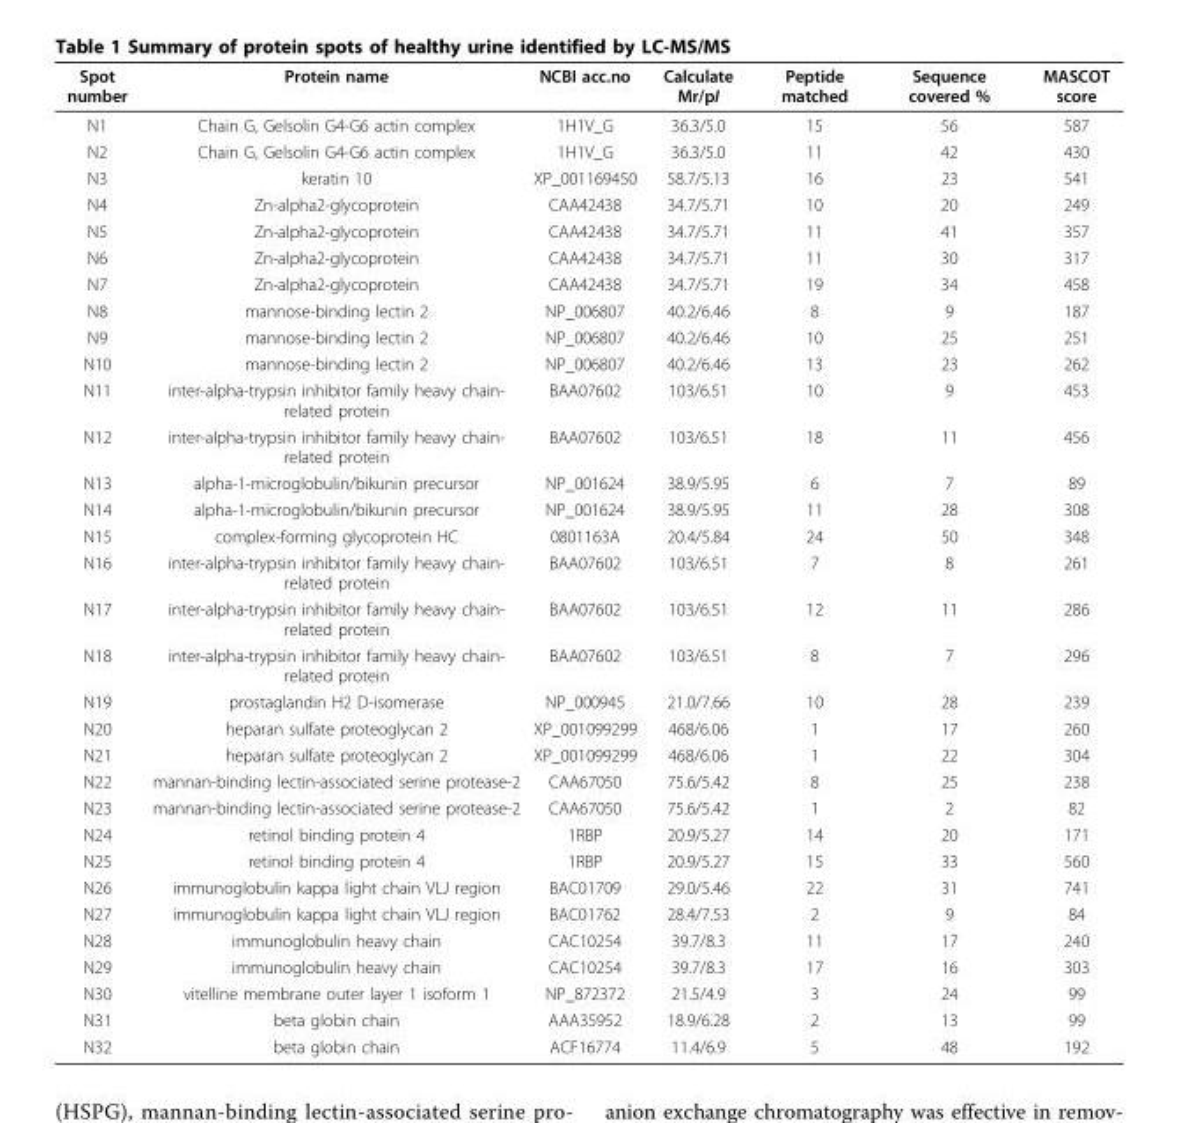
<table><thead><tr><td>Spot number</td><td>Protein name</td><td>NCBI acc.no</td><td>Calculate Mr/pI</td><td>Peptide matched</td><td>Sequence covered %</td><td>MASCOT score</td></tr></thead><tbody><tr><td>N1</td><td>Chain G, Gelsolin G4-G6 actin complex</td><td>1H1V_G</td><td>36.3/5.0</td><td>15</td><td>56</td><td>587</td></tr><tr><td>N2</td><td>Chain G, Gelsolin G4-G6 actin complex</td><td>1H1V_G</td><td>36.3/5.0</td><td>11</td><td>42</td><td>430</td></tr><tr><td>N3</td><td>keratin 10</td><td>XP_001169450</td><td>58.7/5.13</td><td>16</td><td>23</td><td>541</td></tr><tr><td>N4</td><td>Zn-alpha2-glycoprotein</td><td>CAA42438</td><td>34.7/5.71</td><td>10</td><td>20</td><td>249</td></tr><tr><td>N5</td><td>Zn-alpha2-glycoprotein</td><td>CAA42438</td><td>34.7/5.71</td><td>11</td><td>41</td><td>357</td></tr><tr><td>N6</td><td>Zn-alpha2-glycoprotein</td><td>CAA42438</td><td>34.7/5.71</td><td>11</td><td>30</td><td>317</td></tr><tr><td>N7</td><td>Zn-alpha2-glycoprotein</td><td>CAA42438</td><td>34.7/5.71</td><td>19</td><td>34</td><td>458</td></tr><tr><td>N8</td><td>mannose-binding lectin 2</td><td>NP_006807</td><td>40.2/6.46</td><td>8</td><td>9</td><td>187</td></tr><tr><td>N9</td><td>mannose-binding lectin 2</td><td>NP_006807</td><td>40.2/6.46</td><td>10</td><td>25</td><td>251</td></tr><tr><td>N10</td><td>mannose-binding lectin 2</td><td>NP_006807</td><td>40.2/6.46</td><td>13</td><td>23</td><td>262</td></tr><tr><td>N11</td><td>inter-alpha-trypsin inhibitor family heavy chain- related protein</td><td>BAA07602</td><td>103/6.51</td><td>10</td><td>9</td><td>453</td></tr><tr><td>N12</td><td>inter-alpha-trypsin inhibitor family heavy chain- related protein</td><td>BAA07602</td><td>103/6.51</td><td>18</td><td>11</td><td>456</td></tr><tr><td>N13</td><td>alpha-1-microglobulin/bikunin precursor</td><td>NP_001624</td><td>38.9/5.95</td><td>6</td><td>7</td><td>89</td></tr><tr><td>N14</td><td>alpha-1-microglobulin/bikunin precursor</td><td>NP_001624</td><td>38.9/5.95</td><td>11</td><td>28</td><td>308</td></tr><tr><td>N15</td><td>complex-forming glycoprotein HC</td><td>0801163A</td><td>20.4/5.84</td><td>24</td><td>50</td><td>348</td></tr><tr><td>N16</td><td>inter-alpha-trypsin inhibitor family heavy chain- related protein</td><td>BAA07602</td><td>103/6.51</td><td>7</td><td>8</td><td>261</td></tr><tr><td>N17</td><td>inter-alpha-trypsin inhibitor family heavy chain- related protein</td><td>BAA07602</td><td>103/6.51</td><td>12</td><td>11</td><td>286</td></tr><tr><td>N18</td><td>inter-alpha-trypsin inhibitor family heavy chain- related protein</td><td>BAA07602</td><td>103/6.51</td><td>8</td><td>7</td><td>296</td></tr><tr><td>N19</td><td>prostaglandin H2 D-isomerase</td><td>NP_000945</td><td>21.0/7.66</td><td>10</td><td>28</td><td>239</td></tr><tr><td>N20</td><td>heparan sulfate proteoglycan 2</td><td>XP_001099299</td><td>468/6.06</td><td>1</td><td>17</td><td>260</td></tr><tr><td>N21</td><td>heparan sulfate proteoglycan 2</td><td>XP_001099299</td><td>468/6.06</td><td>1</td><td>22</td><td>304</td></tr><tr><td>N22</td><td>mannan-binding lectin-associated serine protease-2</td><td>CAA67050</td><td>75.6/5.42</td><td>8</td><td>25</td><td>238</td></tr><tr><td>N23</td><td>mannan-binding lectin-associated serine protease-2</td><td>CAA67050</td><td>75.6/5.42</td><td>1</td><td>2</td><td>82</td></tr><tr><td>N24</td><td>retinol binding protein 4</td><td>1RBP</td><td>20.9/5.27</td><td>14</td><td>20</td><td>171</td></tr><tr><td>N25</td><td>retinol binding protein 4</td><td>1RBP</td><td>20.9/5.27</td><td>15</td><td>33</td><td>560</td></tr><tr><td>N26</td><td>immunoglobulin kappa light chain VLJ region</td><td>BAC01709</td><td>29.0/5.46</td><td>22</td><td>31</td><td>741</td></tr><tr><td>N27</td><td>immunoglobulin kappa light chain VLJ region</td><td>BAC01762</td><td>28.4/7.53</td><td>2</td><td>9</td><td>84</td></tr><tr><td>N28</td><td>immunoglobulin heavy chain</td><td>CAC10254</td><td>39.7/8.3</td><td>11</td><td>17</td><td>240</td></tr><tr><td>N29</td><td>immunoglobulin heavy chain</td><td>CAC10254</td><td>39.7/8.3</td><td>17</td><td>16</td><td>303</td></tr><tr><td>N30</td><td>vitelline membrane outer layer 1 isoform 1</td><td>NP_872372</td><td>21.5/4.9</td><td>3</td><td>24</td><td>99</td></tr><tr><td>N31</td><td>beta globin chain</td><td>AAA35952</td><td>18.9/6.28</td><td>2</td><td>13</td><td>99</td></tr><tr><td>N32</td><td>beta globin chain</td><td>ACF16774</td><td>11.4/6.9</td><td>5</td><td>48</td><td>192</td></tr></tbody></table>